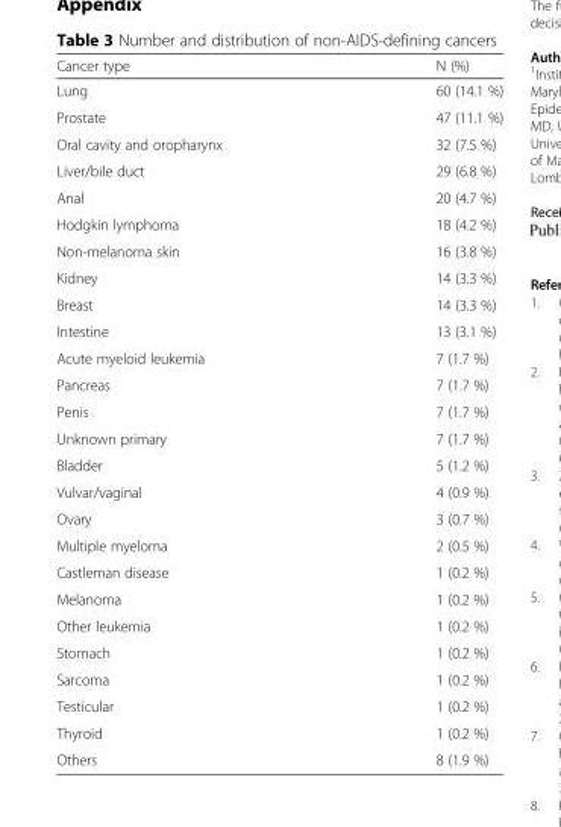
<table><thead><tr><td>Cancer type</td><td>N (%)</td></tr></thead><tbody><tr><td>Lung</td><td>60 (14.1 %)</td></tr><tr><td>Prostate</td><td>47 (11.1 %)</td></tr><tr><td>Oral cavity and oropharynx</td><td>32 (7.5 %)</td></tr><tr><td>Liver/bile duct</td><td>29 (6.8 %)</td></tr><tr><td>Anal</td><td>20 (4.7 %)</td></tr><tr><td>Hodgkin lymphoma</td><td>18 (4.2 %)</td></tr><tr><td>Non-melanoma skin</td><td>16 (3.8 %)</td></tr><tr><td>Kidney</td><td>14 (3.3 %)</td></tr><tr><td>Breast</td><td>14 (3.3 %)</td></tr><tr><td>Intestine</td><td>13 (3.1 %)</td></tr><tr><td>Acute myeloid leukemia</td><td>7 (1.7 %)</td></tr><tr><td>Pancreas</td><td>7 (1.7 %)</td></tr><tr><td>Penis</td><td>7 (1.7 %)</td></tr><tr><td>Unknown primary</td><td>7 (1.7 %)</td></tr><tr><td>Bladder</td><td>5 (1.2 %)</td></tr><tr><td>Vulvar/vaginal</td><td>4 (0.9 %)</td></tr><tr><td>Ovary</td><td>3 (0.7 %)</td></tr><tr><td>Multiple myeloma</td><td>2 (0.5 %)</td></tr><tr><td>Castleman disease</td><td>1 (0.2 %)</td></tr><tr><td>Melanoma</td><td>1 (0.2 %)</td></tr><tr><td>Other leukemia</td><td>1 (0.2 %)</td></tr><tr><td>Stomach</td><td>1 (0.2 %)</td></tr><tr><td>Sarcoma</td><td>1 (0.2 %)</td></tr><tr><td>Testicular</td><td>1 (0.2 %)</td></tr><tr><td>Thyroid</td><td>1 (0.2 %)</td></tr><tr><td>Others</td><td>8 (1.9 %)</td></tr></tbody></table>